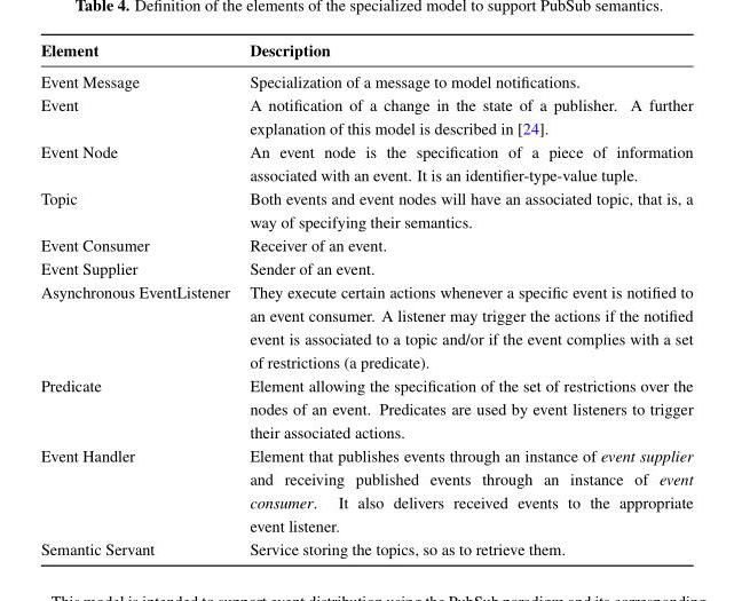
<table><thead><tr><td>Element</td><td>Description</td></tr></thead><tbody><tr><td>Event Message</td><td>Specialization of a message to model notifications.</td></tr><tr><td>Event</td><td>A notification of a change in the state of a publisher. A further explanation of this model is described in [24].</td></tr><tr><td>Event Node</td><td>An event node is the specification of a piece of information associated with an event. It is an identifier-type-value tuple.</td></tr><tr><td>Topic</td><td>Both events and event nodes will have an associated topic, that is, a way of specifying their semantics.</td></tr><tr><td>Event Consumer</td><td>Receiver of an event.</td></tr><tr><td>Event Supplier</td><td>Sender of an event.</td></tr><tr><td>Asynchronous EventListener</td><td>They execute certain actions whenever a specific event is notified to an event consumer. A listener may trigger the actions if the notified event is associated to a topic and/or if the event complies with a set of restrictions (a predicate).</td></tr><tr><td>Predicate</td><td>Element allowing the specification of the set of restrictions over the nodes of an event. Predicates are used by event listeners to trigger their associated actions.</td></tr><tr><td>Event Handler</td><td>Element that publishes events through an instance of event supplier and receiving published events through an instance of event consumer. It also delivers received events to the appropriate event listener.</td></tr><tr><td>Semantic Servant</td><td>Service storing the topics, so as to retrieve them.</td></tr></tbody></table>